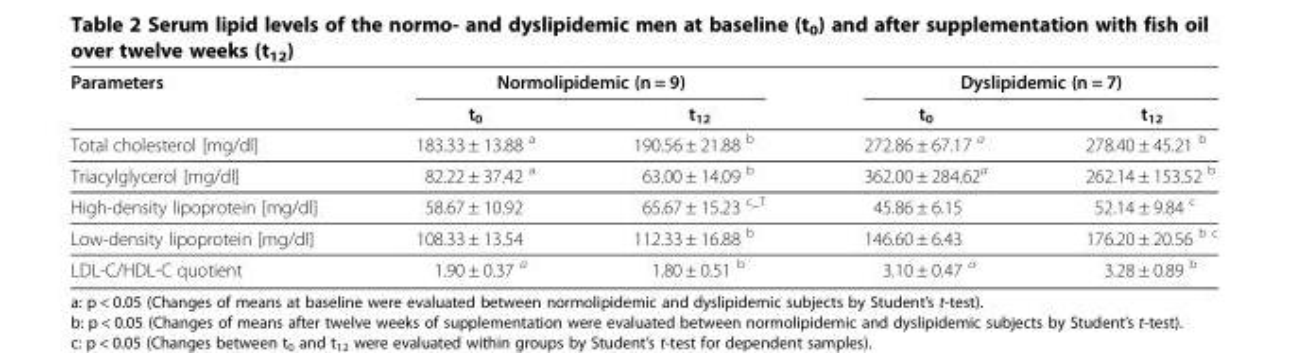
<table><thead><tr><td rowspan="2">Parameters</td><td colspan="2">Normolipidemic (n = 9)</td><td colspan="2">Dyslipidemic (n = 7)</td></tr><tr><td>t<sub>0</sub></td><td>t<sub>12</sub></td><td>t<sub>0</sub></td><td>t<sub>12</sub></td></tr></thead><tbody><tr><td>Total cholesterol [mg/dl]</td><td>183.33 ± 13.88 <sup>a</sup></td><td>190.56 ± 21.88 <sup>b</sup></td><td>272.86 ± 67.17 <sup>a</sup></td><td>278.40 ± 45.21 <sup>b</sup></td></tr><tr><td>Triacylglycerol [mg/dl]</td><td>82.22 ± 37.42 <sup>a</sup></td><td>63.00 ± 14.09 <sup>b</sup></td><td>362.00 ± 284.62<sup>a</sup></td><td>262.14 ± 153.52 <sup>b</sup></td></tr><tr><td>High-density lipoprotein [mg/dl]</td><td>58.67 ± 10.92</td><td>65.67 ± 15.23 <sup>c_T</sup></td><td>45.86 ± 6.15</td><td>52.14 ± 9.84 <sup>c</sup></td></tr><tr><td>Low-density lipoprotein [mg/dl]</td><td>108.33 ± 13.54</td><td>112.33 ± 16.88 <sup>b</sup></td><td>146.60 ± 6.43</td><td>176.20 ± 20.56 <sup>b c</sup></td></tr><tr><td>LDL-C/HDL-C quotient</td><td>1.90 ± 0.37 <sup>a</sup></td><td>1.80 ± 0.51 <sup>b</sup></td><td>3.10 ± 0.47 <sup>a</sup></td><td>3.28 ± 0.89 <sup>b</sup></td></tr></tbody></table>